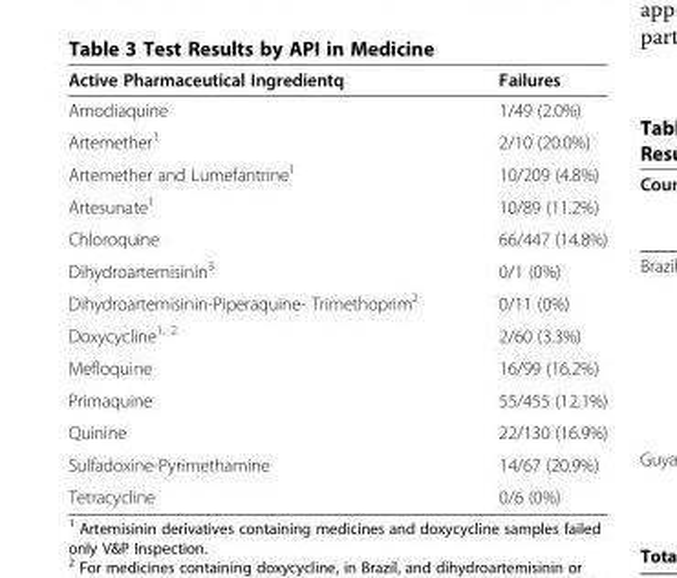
<table><thead><tr><td>Active Pharmaceutical Ingredientq</td><td>Failures</td></tr></thead><tbody><tr><td>Amodiaquine</td><td>1/49 (2.0%)</td></tr><tr><td>Artemether<sup>1</sup></td><td>2/10 (20.0%)</td></tr><tr><td>Artemether and Lumefantrine<sup>1</sup></td><td>10/209 (4.8%)</td></tr><tr><td>Artesunate<sup>1</sup></td><td>10/89 (11.2%)</td></tr><tr><td>Chloroquine</td><td>66/447 (14.8%)</td></tr><tr><td>Dihydroartemisinin<sup>3</sup></td><td>0/1 (0%)</td></tr><tr><td>Dihydroartemisinin-Piperaquine- Trimethoprim<sup>2</sup></td><td>0/11 (0%)</td></tr><tr><td>Doxycycline<sup>1, 2</sup></td><td>2/60 (3.3%)</td></tr><tr><td>Mefloquine</td><td>16/99 (16.2%)</td></tr><tr><td>Primaquine</td><td>55/455 (12.1%)</td></tr><tr><td>Quinine</td><td>22/130 (16.9%)</td></tr><tr><td>Sulfadoxine-Pyrimethamine</td><td>14/67 (20.9%)</td></tr><tr><td>Tetracycline</td><td>0/6 (0%)</td></tr></tbody></table>